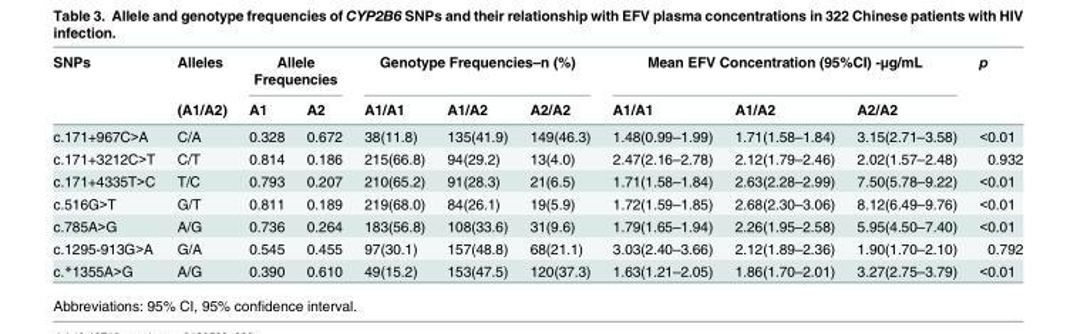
<table><thead><tr><td rowspan="2">SNPs</td><td rowspan="2">Alleles (A1/A2)</td><td colspan="2">Allele Frequencies</td><td colspan="3">Genotype Frequencies–n (%)</td><td colspan="3">Mean EFV Concentration (95%CI) -μg/mL</td><td rowspan="2">p</td></tr><tr><td>A1</td><td>A2</td><td>A1/A1</td><td>A1/A2</td><td>A2/A2</td><td>A1/A1</td><td>A1/A2</td><td>A2/A2</td></tr></thead><tbody><tr><td>c.171+967C&gt;A</td><td>C/A</td><td>0.328</td><td>0.672</td><td>38(11.8)</td><td>135(41.9)</td><td>149(46.3)</td><td>1.48(0.99–1.99)</td><td>1.71(1.58–1.84)</td><td>3.15(2.71–3.58)</td><td>&lt;0.01</td></tr><tr><td>c.171+3212C&gt;T</td><td>C/T</td><td>0.814</td><td>0.186</td><td>215(66.8)</td><td>94(29.2)</td><td>13(4.0)</td><td>2.47(2.16–2.78)</td><td>2.12(1.79–2.46)</td><td>2.02(1.57–2.48)</td><td>0.932</td></tr><tr><td>c.171+4335T&gt;C</td><td>T/C</td><td>0.793</td><td>0.207</td><td>210(65.2)</td><td>91(28.3)</td><td>21(6.5)</td><td>1.71(1.58–1.84)</td><td>2.63(2.28–2.99)</td><td>7.50(5.78–9.22)</td><td>&lt;0.01</td></tr><tr><td>c.516G&gt;T</td><td>G/T</td><td>0.811</td><td>0.189</td><td>219(68.0)</td><td>84(26.1)</td><td>19(5.9)</td><td>1.72(1.59–1.85)</td><td>2.68(2.30–3.06)</td><td>8.12(6.49–9.76)</td><td>&lt;0.01</td></tr><tr><td>c.785A&gt;G</td><td>A/G</td><td>0.736</td><td>0.264</td><td>183(56.8)</td><td>108(33.6)</td><td>31(9.6)</td><td>1.79(1.65–1.94)</td><td>2.26(1.95–2.58)</td><td>5.95(4.50–7.40)</td><td>&lt;0.01</td></tr><tr><td>c.1295-913G&gt;A</td><td>G/A</td><td>0.545</td><td>0.455</td><td>97(30.1)</td><td>157(48.8)</td><td>68(21.1)</td><td>3.03(2.40–3.66)</td><td>2.12(1.89–2.36)</td><td>1.90(1.70–2.10)</td><td>0.792</td></tr><tr><td>c.*1355A&gt;G</td><td>A/G</td><td>0.390</td><td>0.610</td><td>49(15.2)</td><td>153(47.5)</td><td>120(37.3)</td><td>1.63(1.21–2.05)</td><td>1.86(1.70–2.01)</td><td>3.27(2.75–3.79)</td><td>&lt;0.01</td></tr></tbody></table>